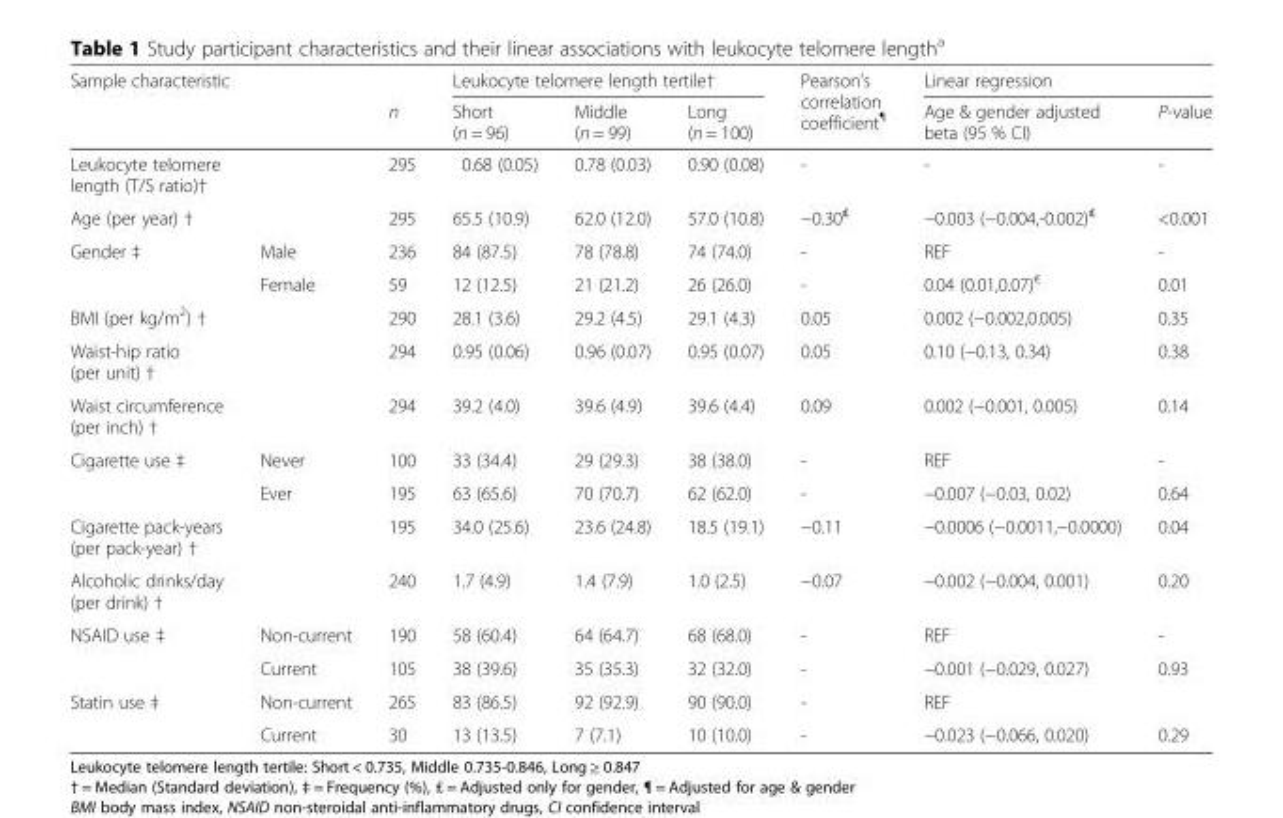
<table><thead><tr><td rowspan="2" colspan="2">Sample characteristic</td><td rowspan="3">n 295</td><td colspan="3">Leukocyte telomere length tertile†</td><td rowspan="3">Pearson’s correlation coefficient<sup>¶</sup> -</td><td colspan="2">Linear regression</td></tr><tr><td rowspan="2">Short (n = 96) 0.68 (0.05)</td><td rowspan="2">Middle (n = 99) 0.78 (0.03)</td><td rowspan="2">Long (n = 100) 0.90 (0.08)</td><td rowspan="2">Age &amp; gender adjusted beta (95 % CI) -</td><td rowspan="2">P-value -</td></tr><tr><td>Leukocyte telomere length (T/S ratio)†</td><td></td></tr></thead><tbody><tr><td>Age (per year) †</td><td></td><td>295</td><td>65.5 (10.9)</td><td>62.0 (12.0)</td><td>57.0 (10.8)</td><td>−0.30<sup>₤</sup></td><td>−0.003 (−0.004,-0.002)<sup>₤</sup></td><td>&lt;0.001</td></tr><tr><td rowspan="2">Gender ‡</td><td>Male</td><td>236</td><td>84 (87.5)</td><td>78 (78.8)</td><td>74 (74.0)</td><td>-</td><td>REF</td><td>-</td></tr><tr><td>Female</td><td>59</td><td>12 (12.5)</td><td>21 (21.2)</td><td>26 (26.0)</td><td>-</td><td>0.04 (0.01,0.07)<sup>€</sup></td><td>0.01</td></tr><tr><td>BMI (per kg/m<sup>2</sup>) †</td><td></td><td>290</td><td>28.1 (3.6)</td><td>29.2 (4.5)</td><td>29.1 (4.3)</td><td>0.05</td><td>0.002 (−0.002,0.005)</td><td>0.35</td></tr><tr><td>Waist-hip ratio (per unit) †</td><td></td><td>294</td><td>0.95 (0.06)</td><td>0.96 (0.07)</td><td>0.95 (0.07)</td><td>0.05</td><td>0.10 (−0.13, 0.34)</td><td>0.38</td></tr><tr><td>Waist circumference (per inch) †</td><td></td><td>294</td><td>39.2 (4.0)</td><td>39.6 (4.9)</td><td>39.6 (4.4)</td><td>0.09</td><td>0.002 (−0.001, 0.005)</td><td>0.14</td></tr><tr><td rowspan="2">Cigarette use ‡</td><td>Never</td><td>100</td><td>33 (34.4)</td><td>29 (29.3)</td><td>38 (38.0)</td><td>-</td><td>REF</td><td>-</td></tr><tr><td>Ever</td><td>195</td><td>63 (65.6)</td><td>70 (70.7)</td><td>62 (62.0)</td><td>-</td><td>−0.007 (−0.03, 0.02)</td><td>0.64</td></tr><tr><td>Cigarette pack-years (per pack-year) †</td><td></td><td>195</td><td>34.0 (25.6)</td><td>23.6 (24.8)</td><td>18.5 (19.1)</td><td>−0.11</td><td>−0.0006 (−0.0011,−0.0000)</td><td>0.04</td></tr><tr><td>Alcoholic drinks/day (per drink) †</td><td></td><td>240</td><td>1.7 (4.9)</td><td>1.4 (7.9)</td><td>1.0 (2.5)</td><td>−0.07</td><td>−0.002 (−0.004, 0.001)</td><td>0.20</td></tr><tr><td rowspan="2">NSAID use ‡</td><td>Non-current</td><td>190</td><td>58 (60.4)</td><td>64 (64.7)</td><td>68 (68.0)</td><td>-</td><td>REF</td><td>-</td></tr><tr><td>Current</td><td>105</td><td>38 (39.6)</td><td>35 (35.3)</td><td>32 (32.0)</td><td>-</td><td>−0.001 (−0.029, 0.027)</td><td>0.93</td></tr><tr><td rowspan="2">Statin use ‡</td><td>Non-current</td><td>265</td><td>83 (86.5)</td><td>92 (92.9)</td><td>90 (90.0)</td><td>-</td><td>REF</td><td></td></tr><tr><td>Current</td><td>30</td><td>13 (13.5)</td><td>7 (7.1)</td><td>10 (10.0)</td><td>-</td><td>−0.023 (−0.066, 0.020)</td><td>0.29</td></tr></tbody></table>